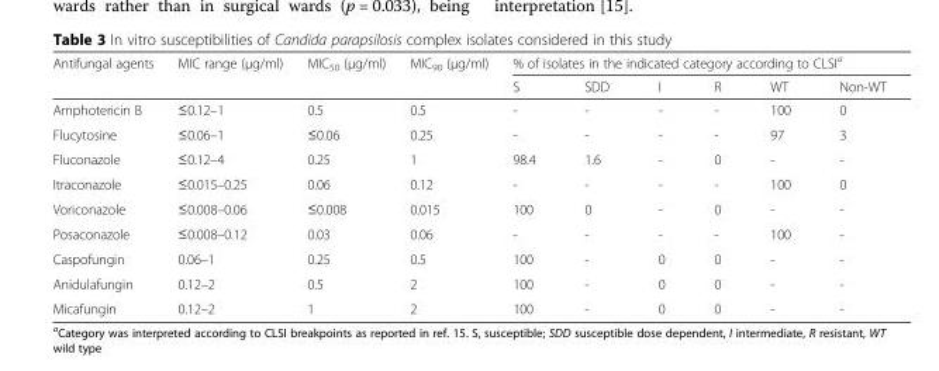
<table><thead><tr><td rowspan="2">Antifungal agents</td><td rowspan="2">MIC range (μg/ml)</td><td rowspan="2">MIC<sub>50</sub> (μg/ml)</td><td rowspan="2">MIC<sub>90</sub> (μg/ml)</td><td colspan="6">% of isolates in the indicated category according to CLSI<sup>a</sup></td></tr><tr><td>S</td><td>SDD</td><td>I</td><td>R</td><td>WT</td><td>Non-WT</td></tr></thead><tbody><tr><td>Amphotericin B</td><td>≤0.12–1</td><td>0.5</td><td>0.5</td><td>-</td><td>-</td><td>-</td><td>-</td><td>100</td><td>0</td></tr><tr><td>Flucytosine</td><td>≤0.06–1</td><td>≤0.06</td><td>0.25</td><td>-</td><td>-</td><td>-</td><td>-</td><td>97</td><td>3</td></tr><tr><td>Fluconazole</td><td>≤0.12–4</td><td>0.25</td><td>1</td><td>98.4</td><td>1.6</td><td>-</td><td>0</td><td>-</td><td>-</td></tr><tr><td>Itraconazole</td><td>≤0.015–0.25</td><td>0.06</td><td>0.12</td><td>-</td><td>-</td><td>-</td><td>-</td><td>100</td><td>0</td></tr><tr><td>Voriconazole</td><td>≤0.008–0.06</td><td>≤0.008</td><td>0.015</td><td>100</td><td>0</td><td>-</td><td>0</td><td>-</td><td>-</td></tr><tr><td>Posaconazole</td><td>≤0.008–0.12</td><td>0.03</td><td>0.06</td><td>-</td><td>-</td><td>-</td><td>-</td><td>100</td><td>-</td></tr><tr><td>Caspofungin</td><td>0.06–1</td><td>0.25</td><td>0.5</td><td>100</td><td>-</td><td>0</td><td>0</td><td>-</td><td>-</td></tr><tr><td>Anidulafungin</td><td>0.12–2</td><td>0.5</td><td>2</td><td>100</td><td>-</td><td>0</td><td>0</td><td>-</td><td>-</td></tr><tr><td>Micafungin</td><td>0.12–2</td><td>1</td><td>2</td><td>100</td><td>-</td><td>0</td><td>0</td><td>-</td><td>-</td></tr></tbody></table>